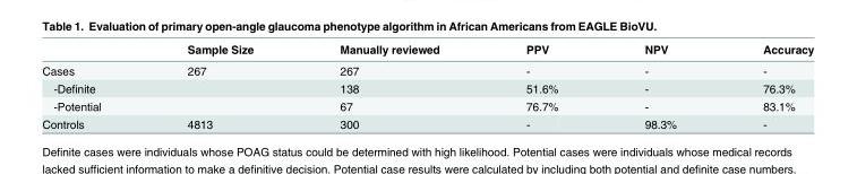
<table><thead><tr><td></td><td>Sample Size</td><td>Manually reviewed</td><td>PPV</td><td>NPV</td><td>Accuracy</td></tr></thead><tbody><tr><td>Cases</td><td>267</td><td>267</td><td>-</td><td>-</td><td>-</td></tr><tr><td>-Definite</td><td></td><td>138</td><td>51.6%</td><td>-</td><td>76.3%</td></tr><tr><td>-Potential</td><td></td><td>67</td><td>76.7%</td><td>-</td><td>83.1%</td></tr><tr><td>Controls</td><td>4813</td><td>300</td><td>-</td><td>98.3%</td><td>-</td></tr></tbody></table>